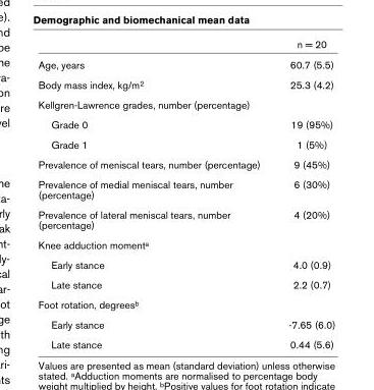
<table><thead><tr><td></td><td>n = 20</td></tr></thead><tbody><tr><td>Age, years</td><td>60.7 (5.5)</td></tr><tr><td>Body mass index, kg/m<sup>2</sup></td><td>25.3 (4.2)</td></tr><tr><td colspan="2">Kellgren-Lawrence grades, number (percentage)</td></tr><tr><td>Grade 0</td><td>19 (95%)</td></tr><tr><td>Grade 1</td><td>1 (5%)</td></tr><tr><td>Prevalence of meniscal tears, number (percentage)</td><td>9 (45%)</td></tr><tr><td>Prevalence of medial meniscal tears, number (percentage)</td><td>6 (30%)</td></tr><tr><td>Prevalence of lateral meniscal tears, number (percentage)</td><td>4 (20%)</td></tr><tr><td colspan="2">Knee adduction moment<sup>a</sup></td></tr><tr><td>Early stance</td><td>4.0 (0.9)</td></tr><tr><td>Late stance</td><td>2.2 (0.7)</td></tr><tr><td colspan="2">Foot rotation, degrees<sup>b</sup></td></tr><tr><td>Early stance</td><td>-7.65 (6.0)</td></tr><tr><td>Late stance</td><td>0.44 (5.6)</td></tr></tbody></table>